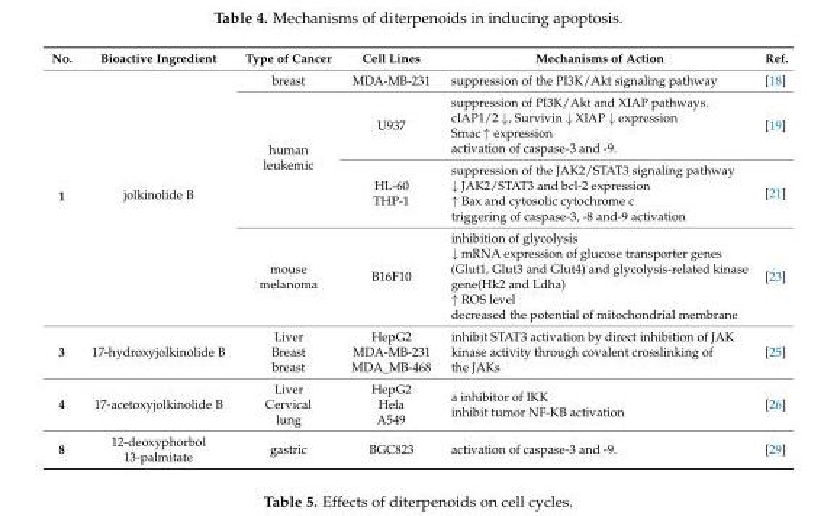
<table><thead><tr><td>No.</td><td>Bioactive Ingredient</td><td>Type of Cancer</td><td>Cell Lines</td><td>Mechanisms of Action</td><td>Ref.</td></tr></thead><tbody><tr><td rowspan="4">1</td><td rowspan="4">jolkinolide B</td><td>breast</td><td>MDA-MB-231</td><td>suppression of the PI3K/Akt signaling pathway</td><td>[18]</td></tr><tr><td rowspan="2">human leukemic</td><td>U937</td><td>suppression of PI3K/Akt and XIAP pathways. cIAP1/2 ↓, Survivin ↓ XIAP ↓ expression Smac ↑ expression activation of caspase-3 and -9.</td><td>[19]</td></tr><tr><td>HL-60 THP-1</td><td>suppression of the JAK2/STAT3 signaling pathway ↓ JAK2/STAT3 and bcl-2 expression ↑ Bax and cytosolic cytochrome c triggering of caspase-3, -8 and-9 activation</td><td>[21]</td></tr><tr><td>mouse melanoma</td><td>B16F10</td><td>inhibition of glycolysis ↓ mRNA expression of glucose transporter genes (Glut1, Glut3 and Glut4) and glycolysis-related kinase gene(Hk2 and Ldha) ↑ ROS level decreased the potential of mitochondrial membrane</td><td>[23]</td></tr><tr><td>3</td><td>17-hydroxyjolkinolide B</td><td>Liver Breast breast</td><td>HepG2 MDA-MB-231 MDA_MB-468</td><td>inhibit STAT3 activation by direct inhibition of JAK kinase activity through covalent crosslinking of the JAKs</td><td>[25]</td></tr><tr><td>4</td><td>17-acetoxyjolkinolide B</td><td>Liver Cervical lung</td><td>HepG2 Hela A549</td><td>a inhibitor of IKK inhibit tumor NF-KB activation</td><td>[26]</td></tr><tr><td>8</td><td>12-deoxyphorbol 13-palmitate</td><td>gastric</td><td>BGC823</td><td>activation of caspase-3 and -9.</td><td>[29]</td></tr></tbody></table>